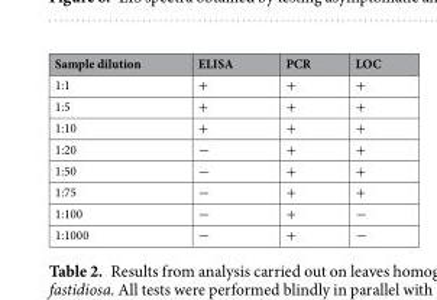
<table><thead><tr><td>Sample dilution</td><td>ELISA</td><td>PCR</td><td>LOC</td></tr></thead><tbody><tr><td>1:1</td><td>+</td><td>+</td><td>+</td></tr><tr><td>1:5</td><td>+</td><td>+</td><td>+</td></tr><tr><td>1:10</td><td>+</td><td>+</td><td>+</td></tr><tr><td>1:20</td><td>−</td><td>+</td><td>+</td></tr><tr><td>1:50</td><td>−</td><td>+</td><td>+</td></tr><tr><td>1:75</td><td>−</td><td>+</td><td>+</td></tr><tr><td>1:100</td><td>−</td><td>+</td><td>−</td></tr><tr><td>1:1000</td><td>−</td><td>+</td><td>−</td></tr></tbody></table>